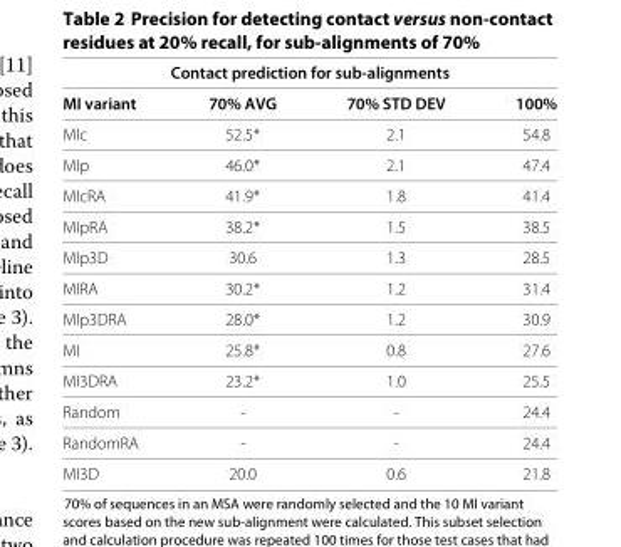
<table><thead><tr><td colspan="4">Contact prediction for sub-alignments</td></tr><tr><td>MI variant</td><td>70% AVG</td><td>70% STD DEV</td><td>100%</td></tr></thead><tbody><tr><td>MIc</td><td>52.5*</td><td>2.1</td><td>54.8</td></tr><tr><td>MIp</td><td>46.0*</td><td>2.1</td><td>47.4</td></tr><tr><td>MIcRA</td><td>41.9*</td><td>1.8</td><td>41.4</td></tr><tr><td>MIpRA</td><td>38.2*</td><td>1.5</td><td>38.5</td></tr><tr><td>MIp3D</td><td>30.6</td><td>1.3</td><td>28.5</td></tr><tr><td>MIRA</td><td>30.2*</td><td>1.2</td><td>31.4</td></tr><tr><td>MIp3DRA</td><td>28.0*</td><td>1.2</td><td>30.9</td></tr><tr><td>MI</td><td>25.8*</td><td>0.8</td><td>27.6</td></tr><tr><td>MI3DRA</td><td>23.2*</td><td>1.0</td><td>25.5</td></tr><tr><td>Random</td><td>-</td><td>-</td><td>24.4</td></tr><tr><td>RandomRA</td><td>-</td><td>-</td><td>24.4</td></tr><tr><td>MI3D</td><td>20.0</td><td>0.6</td><td>21.8</td></tr></tbody></table>